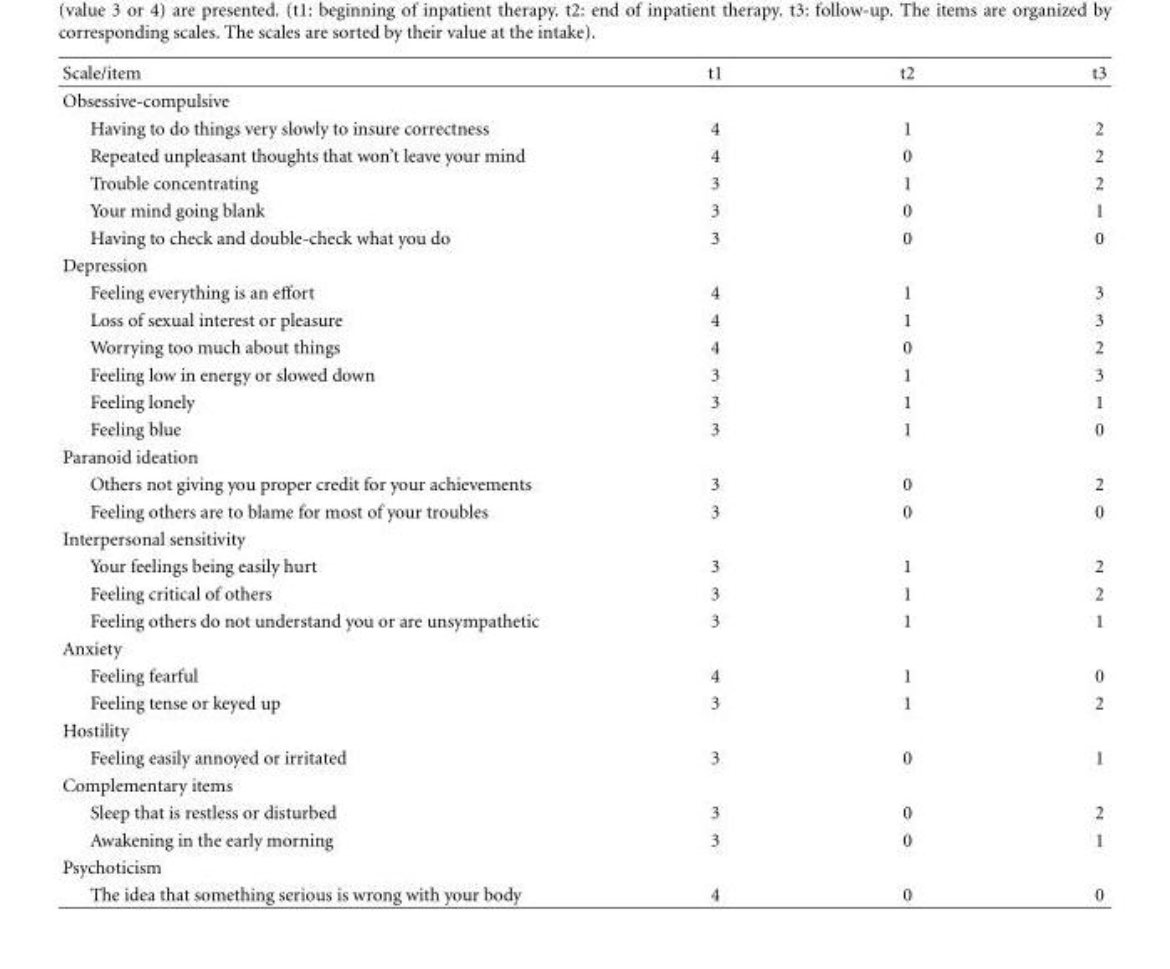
<table><thead><tr><td>Scale/item</td><td>t1</td><td>t2</td><td>t3</td></tr></thead><tbody><tr><td colspan="4">Obsessive-compulsive</td></tr><tr><td>Having to do things very slowly to insure correctness</td><td>4</td><td>1</td><td>2</td></tr><tr><td>Repeated unpleasant thoughts that won’t leave your mind</td><td>4</td><td>0</td><td>2</td></tr><tr><td>Trouble concentrating</td><td>3</td><td>1</td><td>2</td></tr><tr><td>Your mind going blank</td><td>3</td><td>0</td><td>1</td></tr><tr><td>Having to check and double-check what you do</td><td>3</td><td>0</td><td>0</td></tr><tr><td colspan="4">Depression</td></tr><tr><td>Feeling everything is an effort</td><td>4</td><td>1</td><td>3</td></tr><tr><td>Loss of sexual interest or pleasure</td><td>4</td><td>1</td><td>3</td></tr><tr><td>Worrying too much about things</td><td>4</td><td>0</td><td>2</td></tr><tr><td>Feeling low in energy or slowed down</td><td>3</td><td>1</td><td>3</td></tr><tr><td>Feeling lonely</td><td>3</td><td>1</td><td>1</td></tr><tr><td>Feeling blue</td><td>3</td><td>1</td><td>0</td></tr><tr><td colspan="4">Paranoid ideation</td></tr><tr><td>Others not giving you proper credit for your achievements</td><td>3</td><td>0</td><td>2</td></tr><tr><td>Feeling others are to blame for most of your troubles</td><td>3</td><td>0</td><td>0</td></tr><tr><td colspan="4">Interpersonal sensitivity</td></tr><tr><td>Your feelings being easily hurt</td><td>3</td><td>1</td><td>2</td></tr><tr><td>Feeling critical of others</td><td>3</td><td>1</td><td>2</td></tr><tr><td>Feeling others do not understand you or are unsympathetic</td><td>3</td><td>1</td><td>1</td></tr><tr><td colspan="4">Anxiety</td></tr><tr><td>Feeling fearful</td><td>4</td><td>1</td><td>0</td></tr><tr><td>Feeling tense or keyed up</td><td>3</td><td>1</td><td>2</td></tr><tr><td colspan="4">Hostility</td></tr><tr><td>Feeling easily annoyed or irritated</td><td>3</td><td>0</td><td>1</td></tr><tr><td colspan="4">Complementary items</td></tr><tr><td>Sleep that is restless or disturbed</td><td>3</td><td>0</td><td>2</td></tr><tr><td>Awakening in the early morning</td><td>3</td><td>0</td><td>1</td></tr><tr><td colspan="4">Psychoticism</td></tr><tr><td>The idea that something serious is wrong with your body</td><td>4</td><td>0</td><td>0</td></tr></tbody></table>